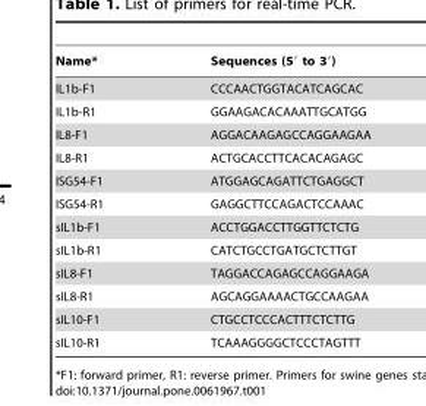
<table><thead><tr><td>Name*</td><td>Sequences (5′ to 3′)</td></tr></thead><tbody><tr><td>IL1b-F1</td><td>CCCAACTGGTACATCAGCAC</td></tr><tr><td>IL1b-R1</td><td>GGAAGACACAAATTGCATGG</td></tr><tr><td>IL8-F1</td><td>AGGACAAGAGCCAGGAAGAA</td></tr><tr><td>IL8-R1</td><td>ACTGCACCTTCACACAGAGC</td></tr><tr><td>ISG54-F1</td><td>ATGGAGCAGATTCTGAGGCT</td></tr><tr><td>ISG54-R1</td><td>GAGGCTTCCAGACTCCAAAC</td></tr><tr><td>sIL1b-F1</td><td>ACCTGGACCTTGGTTCTCTG</td></tr><tr><td>sIL1b-R1</td><td>CATCTGCCTGATGCTCTTGT</td></tr><tr><td>sIL8-F1</td><td>TAGGACCAGAGCCAGGAAGA</td></tr><tr><td>sIL8-R1</td><td>AGCAGGAAAACTGCCAAGAA</td></tr><tr><td>sIL10-F1</td><td>CTGCCTCCCACTTTCTCTTG</td></tr><tr><td>sIL10-R1</td><td>TCAAAGGGGCTCCCTAGTTT</td></tr></tbody></table>